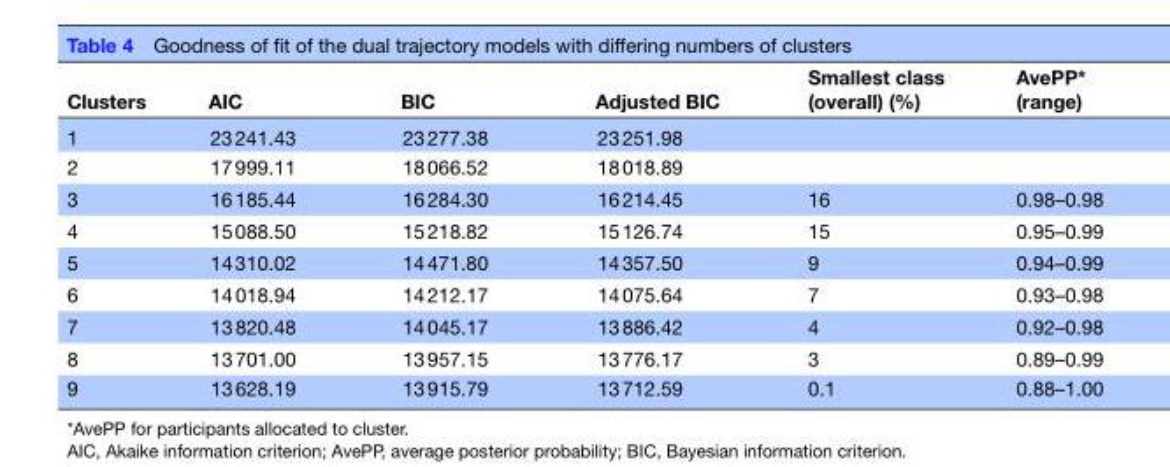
<table><thead><tr><td>Clusters</td><td>AIC</td><td>BIC</td><td>Adjusted BIC</td><td>Smallest class (overall) (%)</td><td>AvePP* (range)</td></tr></thead><tbody><tr><td>1</td><td>23 241.43</td><td>23 277.38</td><td>23 251.98</td><td></td><td></td></tr><tr><td>2</td><td>17 999.11</td><td>18 066.52</td><td>18 018.89</td><td></td><td></td></tr><tr><td>3</td><td>16 185.44</td><td>16 284.30</td><td>16 214.45</td><td>16</td><td>0.98–0.98</td></tr><tr><td>4</td><td>15 088.50</td><td>15 218.82</td><td>15 126.74</td><td>15</td><td>0.95–0.99</td></tr><tr><td>5</td><td>14 310.02</td><td>14 471.80</td><td>14 357.50</td><td>9</td><td>0.94–0.99</td></tr><tr><td>6</td><td>14 018.94</td><td>14 212.17</td><td>14 075.64</td><td>7</td><td>0.93–0.98</td></tr><tr><td>7</td><td>13 820.48</td><td>14 045.17</td><td>13 886.42</td><td>4</td><td>0.92–0.98</td></tr><tr><td>8</td><td>13 701.00</td><td>13 957.15</td><td>13 776.17</td><td>3</td><td>0.89–0.99</td></tr><tr><td>9</td><td>13 628.19</td><td>13 915.79</td><td>13 712.59</td><td>0.1</td><td>0.88–1.00</td></tr></tbody></table>